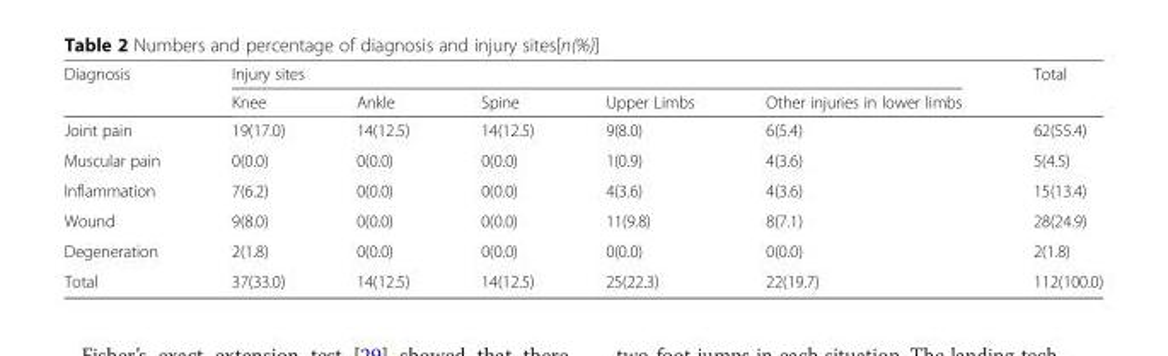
<table><thead><tr><td rowspan="2">Diagnosis</td><td colspan="5">Injury sites</td><td rowspan="2">Total</td></tr><tr><td>Knee</td><td>Ankle</td><td>Spine</td><td>Upper Limbs</td><td>Other injuries in lower limbs</td></tr></thead><tbody><tr><td>Joint pain</td><td>19(17.0)</td><td>14(12.5)</td><td>14(12.5)</td><td>9(8.0)</td><td>6(5.4)</td><td>62(55.4)</td></tr><tr><td>Muscular pain</td><td>0(0.0)</td><td>0(0.0)</td><td>0(0.0)</td><td>1(0.9)</td><td>4(3.6)</td><td>5(4.5)</td></tr><tr><td>Inflammation</td><td>7(6.2)</td><td>0(0.0)</td><td>0(0.0)</td><td>4(3.6)</td><td>4(3.6)</td><td>15(13.4)</td></tr><tr><td>Wound</td><td>9(8.0)</td><td>0(0.0)</td><td>0(0.0)</td><td>11(9.8)</td><td>8(7.1)</td><td>28(24.9)</td></tr><tr><td>Degeneration</td><td>2(1.8)</td><td>0(0.0)</td><td>0(0.0)</td><td>0(0.0)</td><td>0(0.0)</td><td>2(1.8)</td></tr><tr><td>Total</td><td>37(33.0)</td><td>14(12.5)</td><td>14(12.5)</td><td>25(22.3)</td><td>22(19.7)</td><td>112(100.0)</td></tr></tbody></table>